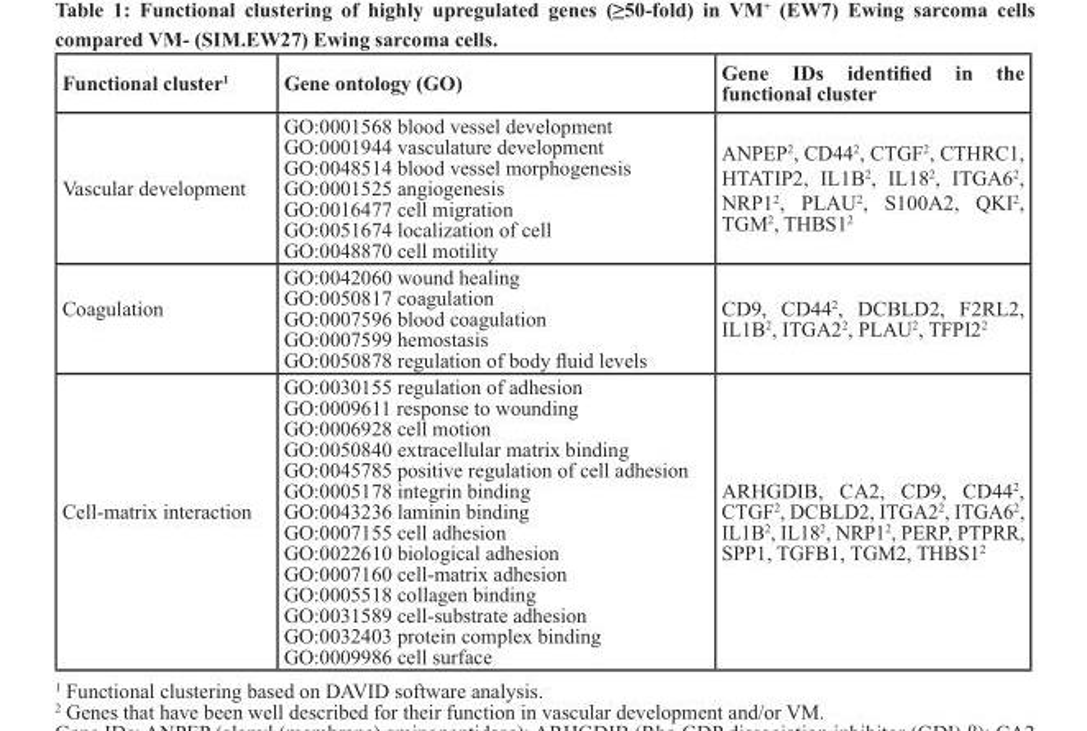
<table><thead><tr><td>Functional cluster<sup>1</sup></td><td>Gene ontology (GO)</td><td>Gene IDs identified in the functional cluster</td></tr></thead><tbody><tr><td>Vascular development</td><td>GO:0001568 blood vessel development GO:0001944 vasculature development GO:0048514 blood vessel morphogenesis GO:0001525 angiogenesis GO:0016477 cell migration GO:0051674 localization of cell GO:0048870 cell motility</td><td>ANPEP<sup>2</sup>, CD44<sup>2</sup>, CTGF<sup>2</sup>, CTHRC1, HTATIP2, IL1B<sup>2</sup>, IL18<sup>2</sup>, ITGA6<sup>2</sup>, NRP1<sup>2</sup>, PLAU<sup>2</sup>, S100A2, QKI<sup>2</sup>, TGM<sup>2</sup>, THBS1<sup>2</sup></td></tr><tr><td>Coagulation</td><td>GO:0042060 wound healing GO:0050817 coagulation GO:0007596 blood coagulation GO:0007599 hemostasis GO:0050878 regulation of body fluid levels</td><td>CD9, CD44<sup>2</sup>, DCBLD2, F2RL2, IL1B<sup>2</sup>, ITGA2<sup>2</sup>, PLAU<sup>2</sup>, TFPI2<sup>2</sup></td></tr><tr><td>Cell-matrix interaction</td><td>GO:0030155 regulation of adhesion GO:0009611 response to wounding GO:0006928 cell motion GO:0050840 extracellular matrix binding GO:0045785 positive regulation of cell adhesion GO:0005178 integrin binding GO:0043236 laminin binding GO:0007155 cell adhesion GO:0022610 biological adhesion GO:0007160 cell-matrix adhesion GO:0005518 collagen binding GO:0031589 cell-substrate adhesion GO:0032403 protein complex binding GO:0009986 cell surface</td><td>ARHGDIB, CA2, CD9, CD44<sup>2</sup>, CTGF<sup>2</sup>, DCBLD2, ITGA2<sup>2</sup>, ITGA6<sup>2</sup>, IL1B<sup>2</sup>, IL18<sup>2</sup>, NRP1<sup>2</sup>, PERP, PTPRR, SPP1, TGFB1, TGM2, THBS1<sup>2</sup></td></tr></tbody></table>